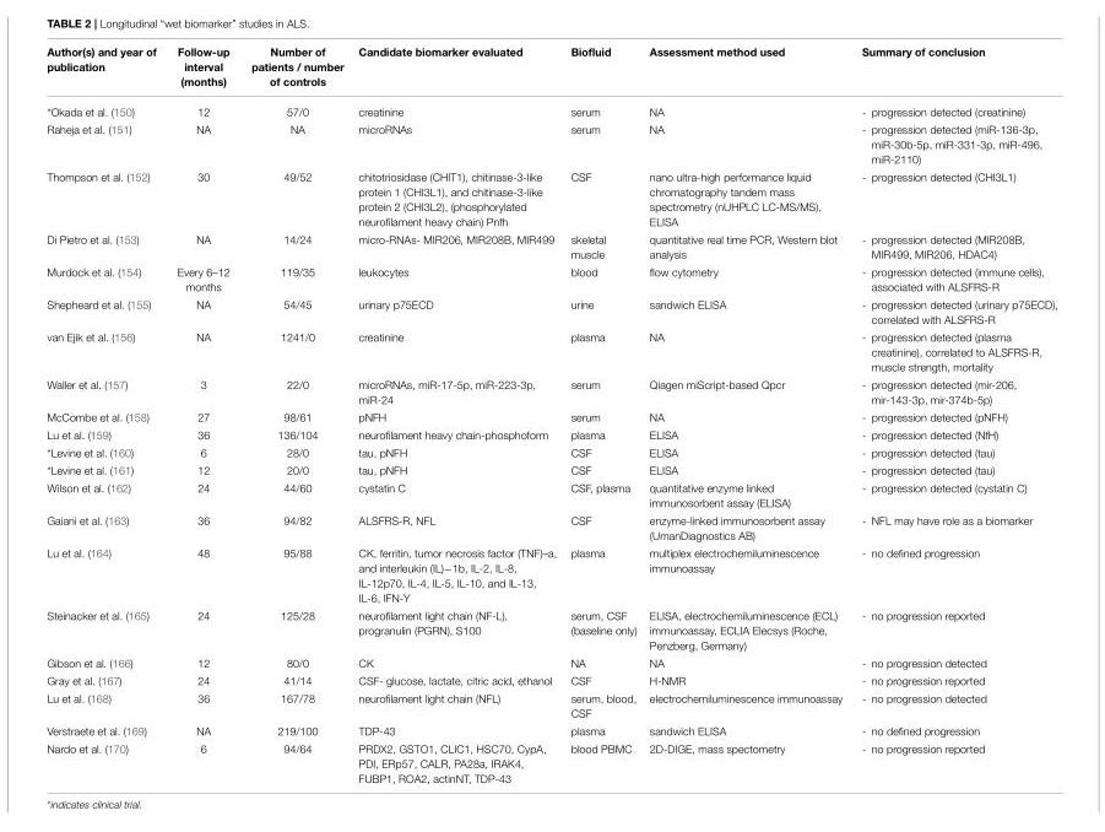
<table><thead><tr><td>Author(s) and year of publication</td><td>Follow-up interval (months)</td><td>Number of patients / number of controls</td><td>Candidate biomarker evaluated</td><td>Biofluid</td><td>Assessment method used</td><td>Summary of conclusion</td></tr></thead><tbody><tr><td>*Okada et al. (150)</td><td>12</td><td>57/0</td><td>creatinine</td><td>serum</td><td>NA</td><td>- progression detected (creatinine)</td></tr><tr><td>Raheja et al. (151)</td><td>NA</td><td>NA</td><td>microRNAs</td><td>serum</td><td>NA</td><td>- progression detected (miR-136-3p, miR-30b-5p, miR-331-3p, miR-496, miR-2110)</td></tr><tr><td>Thompson et al. (152)</td><td>30</td><td>49/52</td><td>chitotriosidase (CHIT1), chitinase-3-like protein 1 (CHI3L1), and chitinase-3-like protein 2 (CHI3L2), (phosphorylated neurofilament heavy chain) Pnfh</td><td>CSF</td><td>nano ultra-high performance liquid chromatography tandem mass spectrometry (nUHPLC LC-MS/MS), ELISA</td><td>- progression detected (CHI3L1)</td></tr><tr><td>Di Pietro et al. (153)</td><td>NA</td><td>14/24</td><td>micro-RNAs- MIR206, MIR208B, MIR499</td><td>skeletal muscle</td><td>quantitative real time PCR, Western blot analysis</td><td>- progression detected (MIR208B, MIR499, MIR206, HDAC4)</td></tr><tr><td>Murdock et al. (154)</td><td>Every 6–12 months</td><td>119/35</td><td>leukocytes</td><td>blood</td><td>flow cytometry</td><td>- progression detected (immune cells), associated with ALSFRS-R</td></tr><tr><td>Shepheard et al. (155)</td><td>NA</td><td>54/45</td><td>urinary p75ECD</td><td>urine</td><td>sandwich ELISA</td><td>- progression detected (urinary p75ECD), correlated with ALSFRS-R</td></tr><tr><td>van Ejik et al. (156)</td><td>NA</td><td>1241/0</td><td>creatinine</td><td>plasma</td><td>NA</td><td>- progression detected (plasma creatinine), correlated to ALSFRS-R, muscle strength, mortality</td></tr><tr><td>Waller et al. (157)</td><td>3</td><td>22/0</td><td>microRNAs, miR-17-5p, miR-223-3p, miR-24</td><td>serum</td><td>Qiagen miScript-based Qpcr</td><td>- progression detected (mir-206, mir-143-3p, mir-374b-5p)</td></tr><tr><td>McCombe et al. (158)</td><td>27</td><td>98/61</td><td>pNFH</td><td>serum</td><td>NA</td><td>- progression detected (pNFH)</td></tr><tr><td>Lu et al. (159)</td><td>36</td><td>136/104</td><td>neurofilament heavy chain-phosphoform</td><td>plasma</td><td>ELISA</td><td>- progression detected (NfH)</td></tr><tr><td>*Levine et al. (160)</td><td>6</td><td>28/0</td><td>tau, pNFH</td><td>CSF</td><td>ELISA</td><td>- progression detected (tau)</td></tr><tr><td>*Levine et al. (161)</td><td>12</td><td>20/0</td><td>tau, pNFH</td><td>CSF</td><td>ELISA</td><td>- progression detected (tau)</td></tr><tr><td>Wilson et al. (162)</td><td>24</td><td>44/60</td><td>cystatin C</td><td>CSF, plasma</td><td>quantitative enzyme linked immunosorbent assay (ELISA)</td><td>- progression detected (cystatin C)</td></tr><tr><td>Gaiani et al. (163)</td><td>36</td><td>94/82</td><td>ALSFRS-R, NFL</td><td>CSF</td><td>enzyme-linked immunosorbent assay (UmanDiagnostics AB)</td><td>- NFL may have role as a biomarker</td></tr><tr><td>Lu et al. (164)</td><td>48</td><td>95/88</td><td>CK, ferritin, tumor necrosis factor (TNF)–a, and interleukin (IL)−1b, IL-2, IL-8, IL-12p70, IL-4, IL-5, IL-10, and IL-13, IL-6, IFN-Y</td><td>plasma</td><td>multiplex electrochemiluminescence immunoassay</td><td>- no defined progression</td></tr><tr><td>Steinacker et al. (165)</td><td>24</td><td>125/28</td><td>neurofilament light chain (NF-L), progranulin (PGRN), S100</td><td>serum, CSF (baseline only)</td><td>ELISA, electrochemiluminescence (ECL) immunoassay, ECLIA Elecsys (Roche, Penzberg, Germany)</td><td>- no progression reported</td></tr><tr><td>Gibson et al. (166)</td><td>12</td><td>80/0</td><td>CK</td><td>NA</td><td>NA</td><td>- no progression detected</td></tr><tr><td>Gray et al. (167)</td><td>24</td><td>41/14</td><td>CSF- glucose, lactate, citric acid, ethanol</td><td>CSF</td><td>H-NMR</td><td>- no progression reported</td></tr><tr><td>Lu et al. (168)</td><td>36</td><td>167/78</td><td>neurofilament light chain (NFL)</td><td>serum, blood, CSF</td><td>electrochemiluminescence immunoassay</td><td>- no progression detected</td></tr><tr><td>Verstraete et al. (169)</td><td>NA</td><td>219/100</td><td>TDP-43</td><td>plasma</td><td>sandwich ELISA</td><td>- no defined progression</td></tr><tr><td>Nardo et al. (170)</td><td>6</td><td>94/64</td><td>PRDX2, GSTO1, CLIC1, HSC70, CypA, PDI, ERp57, CALR, PA28a, IRAK4, FUBP1, ROA2, actinNT, TDP-43</td><td>blood PBMC</td><td>2D-DIGE, mass spectometry</td><td>- no progression reported</td></tr></tbody></table>